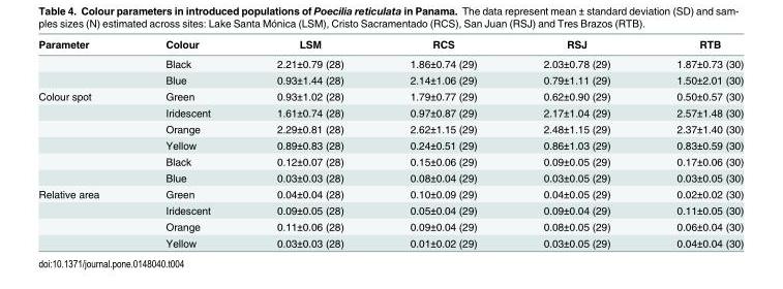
<table><thead><tr><td>Parameter</td><td>Colour</td><td>LSM</td><td>RCS</td><td>RSJ</td><td>RTB</td></tr></thead><tbody><tr><td></td><td>Black</td><td>2.21±0.79 (28)</td><td>1.86±0.74 (29)</td><td>2.03±0.78 (29)</td><td>1.87±0.73 (30)</td></tr><tr><td></td><td>Blue</td><td>0.93±1.44 (28)</td><td>2.14±1.06 (29)</td><td>0.79±1.11 (29)</td><td>1.50±2.01 (30)</td></tr><tr><td rowspan="6">Colour spot</td><td>Green</td><td>0.93±1.02 (28)</td><td>1.79±0.77 (29)</td><td>0.62±0.90 (29)</td><td>0.50±0.57 (30)</td></tr><tr><td>Iridescent</td><td>1.61±0.74 (28)</td><td>0.97±0.87 (29)</td><td>2.17±1.04 (29)</td><td>2.57±1.48 (30)</td></tr><tr><td>Orange</td><td>2.29±0.81 (28)</td><td>2.62±1.15 (29)</td><td>2.48±1.15 (29)</td><td>2.37±1.40 (30)</td></tr><tr><td>Yellow</td><td>0.89±0.83 (28)</td><td>0.24±0.51 (29)</td><td>0.86±1.03 (29)</td><td>0.83±0.59 (30)</td></tr><tr><td>Black</td><td>0.12±0.07 (28)</td><td>0.15±0.06 (29)</td><td>0.09±0.05 (29)</td><td>0.17±0.06 (30)</td></tr><tr><td>Blue</td><td>0.03±0.03 (28)</td><td>0.08±0.04 (29)</td><td>0.03±0.05 (29)</td><td>0.03±0.05 (30)</td></tr><tr><td rowspan="4">Relative area</td><td>Green</td><td>0.04±0.04 (28)</td><td>0.10±0.09 (29)</td><td>0.04±0.05 (29)</td><td>0.02±0.02 (30)</td></tr><tr><td>Iridescent</td><td>0.09±0.05 (28)</td><td>0.05±0.04 (29)</td><td>0.09±0.04 (29)</td><td>0.11±0.05 (30)</td></tr><tr><td>Orange</td><td>0.11±0.06 (28)</td><td>0.09±0.04 (29)</td><td>0.08±0.05 (29)</td><td>0.06±0.04 (30)</td></tr><tr><td>Yellow</td><td>0.03±0.03 (28)</td><td>0.01±0.02 (29)</td><td>0.03±0.05 (29)</td><td>0.04±0.04 (30)</td></tr></tbody></table>